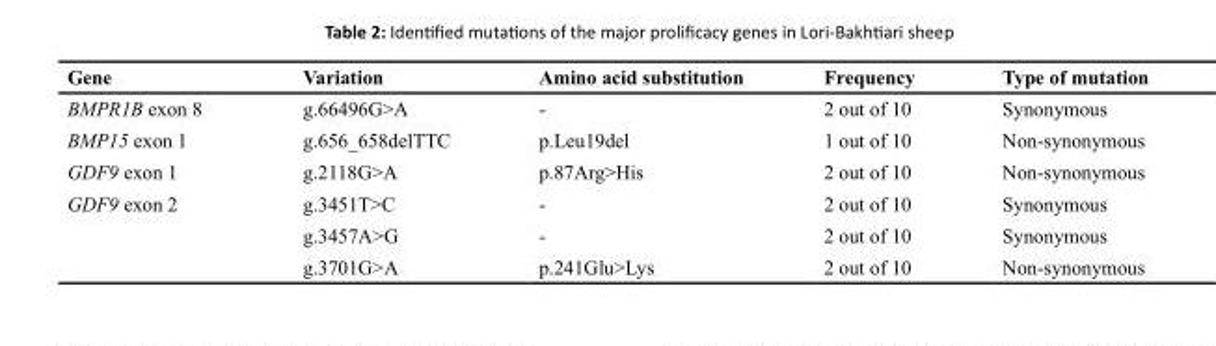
<table><thead><tr><td>Gene</td><td>Variation</td><td>Amino acid substitution</td><td>Frequency</td><td>Type of mutation</td></tr></thead><tbody><tr><td>BMPR1B exon 8</td><td>g.66496G&gt;A</td><td>-</td><td>2 out of 10</td><td>Synonymous</td></tr><tr><td>BMP15 exon 1</td><td>g.656_658delTTC</td><td>p.Leu19del</td><td>1 out of 10</td><td>Non-synonymous</td></tr><tr><td>GDF9 exon 1</td><td>g.2118G&gt;A</td><td>p.87Arg&gt;His</td><td>2 out of 10</td><td>Non-synonymous</td></tr><tr><td rowspan="3">GDF9 exon 2</td><td>g.3451T&gt;C</td><td>-</td><td>2 out of 10</td><td>Synonymous</td></tr><tr><td>g.3457A&gt;G</td><td>-</td><td>2 out of 10</td><td>Synonymous</td></tr><tr><td>g.3701G&gt;A</td><td>p.241Glu&gt;Lys</td><td>2 out of 10</td><td>Non-synonymous</td></tr></tbody></table>